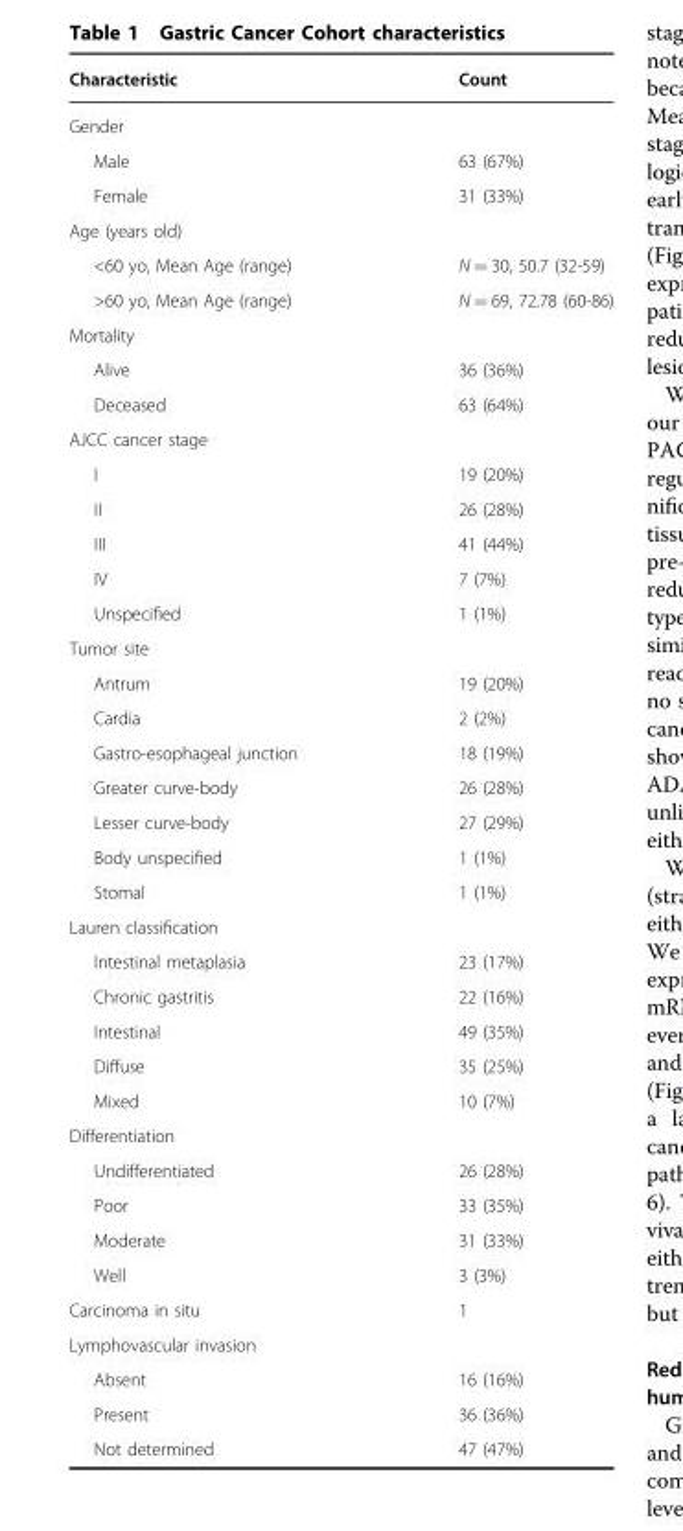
<table><thead><tr><td>Characteristic</td><td>Count</td></tr></thead><tbody><tr><td colspan="2">Gender</td></tr><tr><td>Male</td><td>63 (67%)</td></tr><tr><td>Female</td><td>31 (33%)</td></tr><tr><td colspan="2">Age (years old)</td></tr><tr><td>&lt;60 yo, Mean Age (range)</td><td>N = 30, 50.7 (32-59)</td></tr><tr><td>&gt;60 yo, Mean Age (range)</td><td>N = 69, 72.78 (60-86)</td></tr><tr><td colspan="2">Mortality</td></tr><tr><td>Alive</td><td>36 (36%)</td></tr><tr><td>Deceased</td><td>63 (64%)</td></tr><tr><td colspan="2">AJCC cancer stage</td></tr><tr><td>I</td><td>19 (20%)</td></tr><tr><td>II</td><td>26 (28%)</td></tr><tr><td>III</td><td>41 (44%)</td></tr><tr><td>IV</td><td>7 (7%)</td></tr><tr><td>Unspecified</td><td>1 (1%)</td></tr><tr><td colspan="2">Tumor site</td></tr><tr><td>Antrum</td><td>19 (20%)</td></tr><tr><td>Cardia</td><td>2 (2%)</td></tr><tr><td>Gastro-esophageal junction</td><td>18 (19%)</td></tr><tr><td>Greater curve-body</td><td>26 (28%)</td></tr><tr><td>Lesser curve-body</td><td>27 (29%)</td></tr><tr><td>Body unspecified</td><td>1 (1%)</td></tr><tr><td>Stomal</td><td>1 (1%)</td></tr><tr><td colspan="2">Lauren classification</td></tr><tr><td>Intestinal metaplasia</td><td>23 (17%)</td></tr><tr><td>Chronic gastritis</td><td>22 (16%)</td></tr><tr><td>Intestinal</td><td>49 (35%)</td></tr><tr><td>Diffuse</td><td>35 (25%)</td></tr><tr><td>Mixed</td><td>10 (7%)</td></tr><tr><td colspan="2">Differentiation</td></tr><tr><td>Undifferentiated</td><td>26 (28%)</td></tr><tr><td>Poor</td><td>33 (35%)</td></tr><tr><td>Moderate</td><td>31 (33%)</td></tr><tr><td>Well</td><td>3 (3%)</td></tr><tr><td>Carcinoma in situ</td><td>1</td></tr><tr><td colspan="2">Lymphovascular invasion</td></tr><tr><td>Absent</td><td>16 (16%)</td></tr><tr><td>Present</td><td>36 (36%)</td></tr><tr><td>Not determined</td><td>47 (47%)</td></tr></tbody></table>